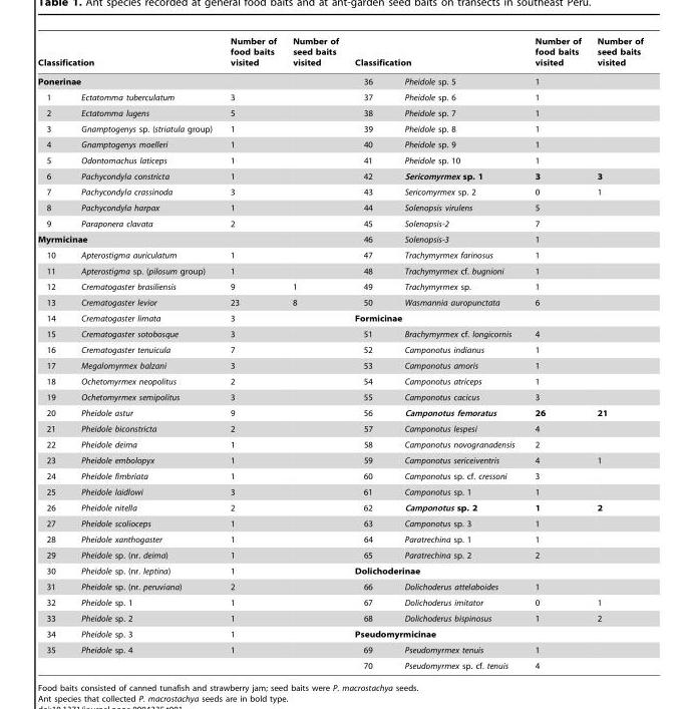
<table><thead><tr><td rowspan="2" colspan="2">Classification Ponerinae</td><td rowspan="3">Number of food baits visited 3</td><td rowspan="3">Number of seed baits visited</td><td colspan="2">Classification</td><td rowspan="3">Number of food baits visited 1 1</td><td rowspan="3">Number of seed baits visited</td></tr><tr><td rowspan="2">36 37</td><td rowspan="2">Pheidole sp. 5 Pheidole sp. 6</td></tr><tr><td>1</td><td>Ectatomma tuberculatum</td></tr></thead><tbody><tr><td>2</td><td>Ectatomma lugens</td><td>5</td><td></td><td>38</td><td>Pheidole sp. 7</td><td>1</td><td></td></tr><tr><td>3</td><td>Gnamptogenys sp. (striatula group)</td><td>1</td><td></td><td>39</td><td>Pheidole sp. 8</td><td>1</td><td></td></tr><tr><td>4</td><td>Gnamptogenys moelleri</td><td>1</td><td></td><td>40</td><td>Pheidole sp. 9</td><td>1</td><td></td></tr><tr><td>5</td><td>Odontomachus laticeps</td><td>1</td><td></td><td>41</td><td>Pheidole sp. 10</td><td>1</td><td></td></tr><tr><td>6</td><td>Pachycondyla constricta</td><td>1</td><td></td><td>42</td><td>Sericomyrmex sp. 1</td><td>3</td><td>3</td></tr><tr><td>7</td><td>Pachycondyla crassinoda</td><td>3</td><td></td><td>43</td><td>Sericomyrmex sp. 2</td><td>0</td><td>1</td></tr><tr><td>8</td><td>Pachycondyla harpax</td><td>1</td><td></td><td>44</td><td>Solenopsis virulens</td><td>5</td><td></td></tr><tr><td>9</td><td>Paraponera clavata</td><td>2</td><td></td><td>45</td><td>Solenopsis-2</td><td>7</td><td></td></tr><tr><td colspan="2">Myrmicinae</td><td></td><td></td><td>46</td><td>Solenopsis-3</td><td>1</td><td></td></tr><tr><td>10</td><td>Apterostigma auriculatum</td><td>1</td><td></td><td>47</td><td>Trachymyrmex farinosus</td><td>1</td><td></td></tr><tr><td>11</td><td>Apterostigma sp. (pilosum group)</td><td>1</td><td></td><td>48</td><td>Trachymyrmex cf. bugnioni</td><td>1</td><td></td></tr><tr><td>12</td><td>Crematogaster brasiliensis</td><td>9</td><td>1</td><td>49</td><td>Trachymyrmex sp.</td><td>1</td><td></td></tr><tr><td>13</td><td>Crematogaster levior</td><td>23</td><td>8</td><td>50</td><td>Wasmannia auropunctata</td><td>6</td><td></td></tr><tr><td>14</td><td>Crematogaster limata</td><td>3</td><td></td><td colspan="2">Formicinae</td><td></td><td></td></tr><tr><td>15</td><td>Crematogaster sotobosque</td><td>3</td><td></td><td>51</td><td>Brachymyrmex cf. longicornis</td><td>4</td><td></td></tr><tr><td>16</td><td>Crematogaster tenuicula</td><td>7</td><td></td><td>52</td><td>Camponotus indianus</td><td>1</td><td></td></tr><tr><td>17</td><td>Megalomyrmex balzani</td><td>3</td><td></td><td>53</td><td>Camponotus amoris</td><td>1</td><td></td></tr><tr><td>18</td><td>Ochetomyrmex neopolitus</td><td>2</td><td></td><td>54</td><td>Camponotus atriceps</td><td>1</td><td></td></tr><tr><td>19</td><td>Ochetomyrmex semipolitus</td><td>3</td><td></td><td>55</td><td>Camponotus cacicus</td><td>3</td><td></td></tr><tr><td>20</td><td>Pheidole astur</td><td>9</td><td></td><td>56</td><td>Camponotus femoratus</td><td>26</td><td>21</td></tr><tr><td>21</td><td>Pheidole biconstricta</td><td>2</td><td></td><td>57</td><td>Camponotus lespesi</td><td>4</td><td></td></tr><tr><td>22</td><td>Pheidole deima</td><td>1</td><td></td><td>58</td><td>Camponotus novogranadensis</td><td>2</td><td></td></tr><tr><td>23</td><td>Pheidole embolopyx</td><td>1</td><td></td><td>59</td><td>Camponotus sericeiventris</td><td>4</td><td>1</td></tr><tr><td>24</td><td>Pheidole fimbriata</td><td>1</td><td></td><td>60</td><td>Camponotus sp. cf. cressoni</td><td>3</td><td></td></tr><tr><td>25</td><td>Pheidole laidlowi</td><td>3</td><td></td><td>61</td><td>Camponotus sp. 1</td><td>1</td><td></td></tr><tr><td>26</td><td>Pheidole nitella</td><td>2</td><td></td><td>62</td><td>Camponotus sp. 2</td><td>1</td><td>2</td></tr><tr><td>27</td><td>Pheidole scolioceps</td><td>1</td><td></td><td>63</td><td>Camponotus sp. 3</td><td>1</td><td></td></tr><tr><td>28</td><td>Pheidole xanthogaster</td><td>1</td><td></td><td>64</td><td>Paratrechina sp. 1</td><td>1</td><td></td></tr><tr><td>29</td><td>Pheidole sp. (nr. deima)</td><td>1</td><td></td><td>65</td><td>Paratrechina sp. 2</td><td>2</td><td></td></tr><tr><td>30</td><td>Pheidole sp. (nr. leptina)</td><td>1</td><td></td><td colspan="2">Dolichoderinae</td><td></td><td></td></tr><tr><td>31</td><td>Pheidole sp. (nr. peruviana)</td><td>2</td><td></td><td>66</td><td>Dolichoderus attelaboides</td><td>1</td><td></td></tr><tr><td>32</td><td>Pheidole sp. 1</td><td>1</td><td></td><td>67</td><td>Dolichoderus imitator</td><td>0</td><td>1</td></tr><tr><td>33</td><td>Pheidole sp. 2</td><td>1</td><td></td><td>68</td><td>Dolichoderus bispinosus</td><td>1</td><td>2</td></tr><tr><td>34</td><td>Pheidole sp. 3</td><td>1</td><td></td><td colspan="2">Pseudomyrmicinae</td><td></td><td></td></tr><tr><td rowspan="2">35</td><td>Pheidole sp. 4</td><td>1</td><td></td><td>69</td><td>Pseudomyrmex tenuis</td><td>1</td><td></td></tr><tr><td></td><td></td><td></td><td>70</td><td>Pseudomyrmex sp. cf. tenuis</td><td>4</td><td></td></tr></tbody></table>